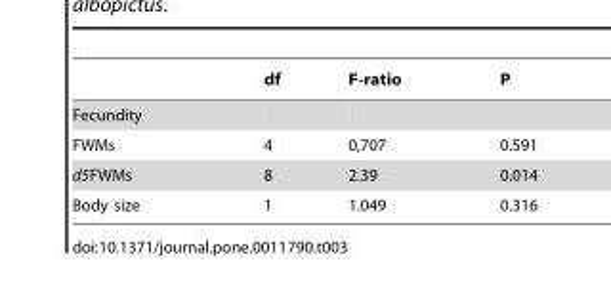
<table><thead><tr><td></td><td>df</td><td>F-ratio</td><td>P</td></tr></thead><tbody><tr><td colspan="4">Fecundity</td></tr><tr><td>FWMs</td><td>4</td><td>0,707</td><td>0.591</td></tr><tr><td>d5FWMs</td><td>8</td><td>2.39</td><td>0.014</td></tr><tr><td>Body size</td><td>1</td><td>1.049</td><td>0.316</td></tr></tbody></table>